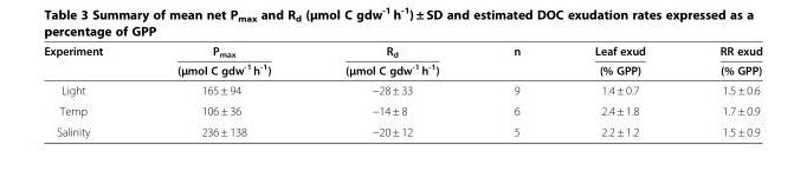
<table><thead><tr><td rowspan="2">Experiment</td><td rowspan="2">P<sub>max</sub> (μmol C gdw<sup>-1</sup> h<sup>-1</sup>)</td><td rowspan="2">R<sub>d</sub> (μmol C gdw<sup>-1</sup> h<sup>-1</sup>)</td><td rowspan="2">n</td><td rowspan="2">Leaf exud (% GPP)</td><td rowspan="2">RR exud (% GPP)</td></tr><tr></tr></thead><tbody><tr><td>Light</td><td>165 ± 94</td><td>−28 ± 33</td><td>9</td><td>1.4 ± 0.7</td><td>1.5 ± 0.6</td></tr><tr><td>Temp</td><td>106 ± 36</td><td>−14 ± 8</td><td>6</td><td>2.4 ± 1.8</td><td>1.7 ± 0.9</td></tr><tr><td>Salinity</td><td>236 ± 138</td><td>−20 ± 12</td><td>5</td><td>2.2 ± 1.2</td><td>1.5 ± 0.9</td></tr></tbody></table>